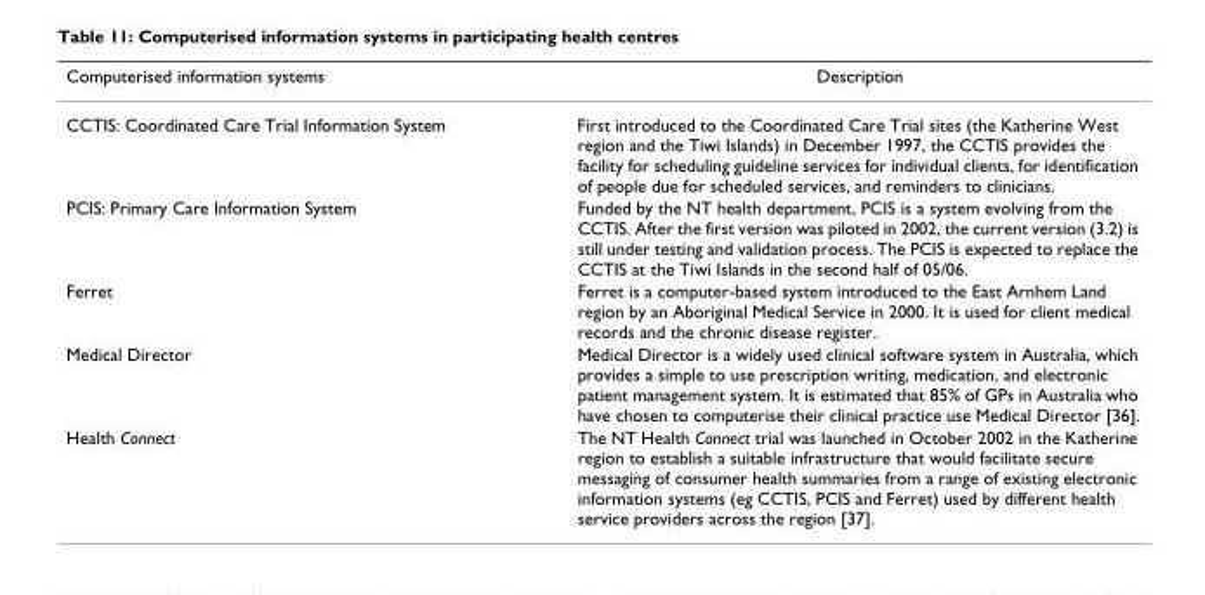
<table><thead><tr><td>Computerised information systems</td><td>Description</td></tr></thead><tbody><tr><td>CCTIS: Coordinated Care Trial Information System</td><td>First introduced to the Coordinated Care Trial sites (the Katherine West region and the Tiwi Islands) in December 1997, the CCTIS provides the facility for scheduling guideline services for individual clients, for identification of people due for scheduled services, and reminders to clinicians.</td></tr><tr><td>PCIS: Primary Care Information System</td><td>Funded by the NT health department, PCIS is a system evolving from the CCTIS. After the first version was piloted in 2002, the current version (3.2) is still under testing and validation process. The PCIS is expected to replace the CCTIS at the Tiwi Islands in the second half of 05/06.</td></tr><tr><td>Ferret</td><td>Ferret is a computer-based system introduced to the East Arnhem Land region by an Aboriginal Medical Service in 2000. It is used for client medical records and the chronic disease register.</td></tr><tr><td>Medical Director</td><td>Medical Director is a widely used clinical software system in Australia, which provides a simple to use prescription writing, medication, and electronic patient management system. It is estimated that 85% of GPs in Australia who have chosen to computerise their clinical practice use Medical Director [36].</td></tr><tr><td>Health Connect</td><td>The NT Health Connect trial was launched in October 2002 in the Katherine region to establish a suitable infrastructure that would facilitate secure messaging of consumer health summaries from a range of existing electronic information systems (eg CCTIS, PCIS and Ferret) used by different health service providers across the region [37].</td></tr></tbody></table>